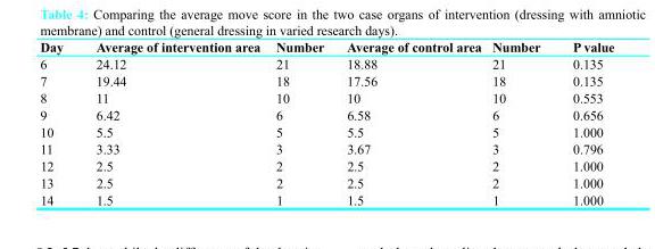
<table><thead><tr><td>Day</td><td>Average of intervention area</td><td>Number</td><td>Average of control area</td><td>Number</td><td>P value</td></tr></thead><tbody><tr><td>6</td><td>24.12</td><td>21</td><td>18.88</td><td>21</td><td>0.135</td></tr><tr><td>7</td><td>19.44</td><td>18</td><td>17.56</td><td>18</td><td>0.135</td></tr><tr><td>8</td><td>11</td><td>10</td><td>10</td><td>10</td><td>0.553</td></tr><tr><td>9</td><td>6.42</td><td>6</td><td>6.58</td><td>6</td><td>0.656</td></tr><tr><td>10</td><td>5.5</td><td>5</td><td>5.5</td><td>5</td><td>1.000</td></tr><tr><td>11</td><td>3.33</td><td>3</td><td>3.67</td><td>3</td><td>0.796</td></tr><tr><td>12</td><td>2.5</td><td>2</td><td>2.5</td><td>2</td><td>1.000</td></tr><tr><td>13</td><td>2.5</td><td>2</td><td>2.5</td><td>2</td><td>1.000</td></tr><tr><td>14</td><td>1.5</td><td>1</td><td>1.5</td><td>1</td><td>1.000</td></tr></tbody></table>